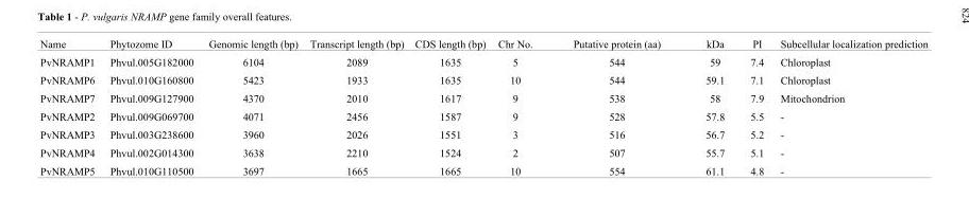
<table><thead><tr><td>Name</td><td>Phytozome ID</td><td>Genomic length (bp)</td><td>Transcript length (bp)</td><td>CDS length (bp)</td><td>Chr No.</td><td>Putative protein (aa)</td><td>kDa</td><td>PI</td><td>Subcellular localization prediction</td></tr></thead><tbody><tr><td>PvNRAMP1</td><td>Phvul.005G182000</td><td>6104</td><td>2089</td><td>1635</td><td>5</td><td>544</td><td>59</td><td>7.4</td><td>Chloroplast</td></tr><tr><td>PvNRAMP6</td><td>Phvul.010G160800</td><td>5423</td><td>1933</td><td>1635</td><td>10</td><td>544</td><td>59.1</td><td>7.1</td><td>Chloroplast</td></tr><tr><td>PvNRAMP7</td><td>Phvul.009G127900</td><td>4370</td><td>2010</td><td>1617</td><td>9</td><td>538</td><td>58</td><td>7.9</td><td>Mitochondrion</td></tr><tr><td>PvNRAMP2</td><td>Phvul.009G069700</td><td>4071</td><td>2456</td><td>1587</td><td>9</td><td>528</td><td>57.8</td><td>5.5</td><td>-</td></tr><tr><td>PvNRAMP3</td><td>Phvul.003G238600</td><td>3960</td><td>2026</td><td>1551</td><td>3</td><td>516</td><td>56.7</td><td>5.2</td><td>-</td></tr><tr><td>PvNRAMP4</td><td>Phvul.002G014300</td><td>3638</td><td>2210</td><td>1524</td><td>2</td><td>507</td><td>55.7</td><td>5.1</td><td>-</td></tr><tr><td>PvNRAMP5</td><td>Phvul.010G110500</td><td>3697</td><td>1665</td><td>1665</td><td>10</td><td>554</td><td>61.1</td><td>4.8</td><td>-</td></tr></tbody></table>